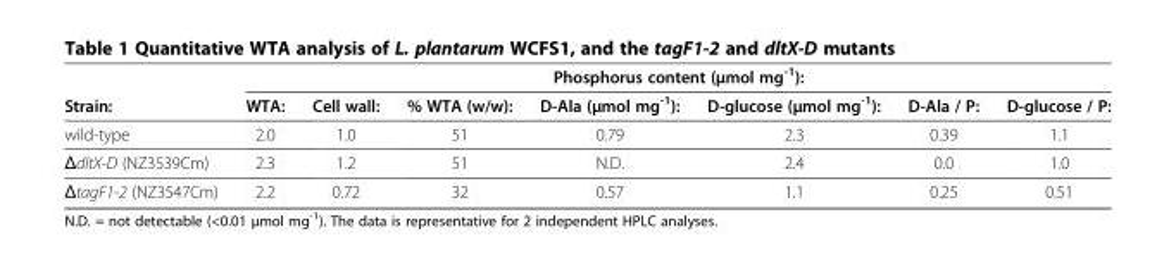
<table><thead><tr><td rowspan="2">Strain:</td><td colspan="7">Phosphorus content (μmol mg<sup>-1</sup>):</td></tr><tr><td>WTA:</td><td>Cell wall:</td><td>% WTA (w/w):</td><td>D-Ala (μmol mg<sup>-1</sup>):</td><td>D-glucose (μmol mg<sup>-1</sup>):</td><td>D-Ala / P:</td><td>D-glucose / P:</td></tr></thead><tbody><tr><td>wild-type</td><td>2.0</td><td>1.0</td><td>51</td><td>0.79</td><td>2.3</td><td>0.39</td><td>1.1</td></tr><tr><td>ΔdltX-D (NZ3539Cm)</td><td>2.3</td><td>1.2</td><td>51</td><td>N.D.</td><td>2.4</td><td>0.0</td><td>1.0</td></tr><tr><td>ΔtagF1-2 (NZ3547Cm)</td><td>2.2</td><td>0.72</td><td>32</td><td>0.57</td><td>1.1</td><td>0.25</td><td>0.51</td></tr></tbody></table>